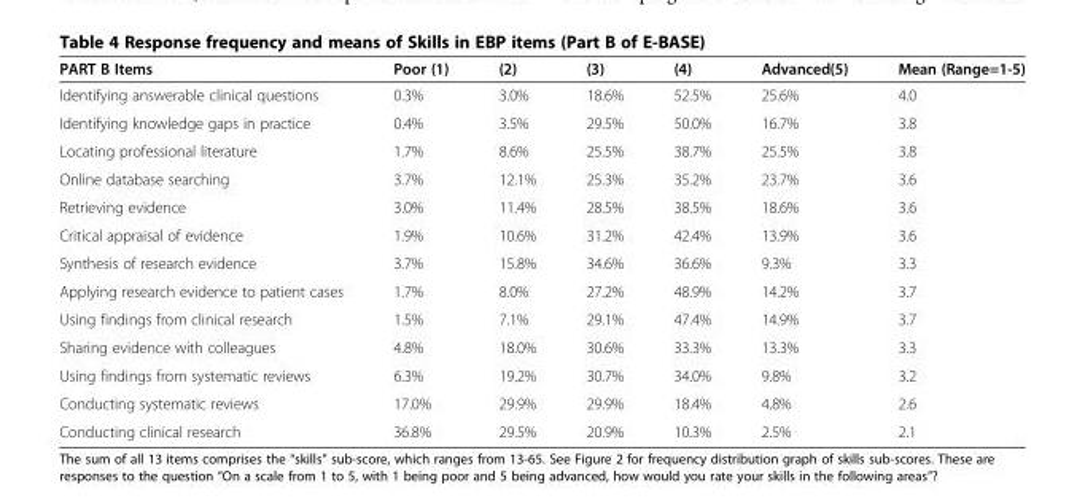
<table><thead><tr><td>PART B Items</td><td>Poor (1)</td><td>(2)</td><td>(3)</td><td>(4)</td><td>Advanced(5)</td><td>Mean (Range=1-5)</td></tr></thead><tbody><tr><td>Identifying answerable clinical questions</td><td>0.3%</td><td>3.0%</td><td>18.6%</td><td>52.5%</td><td>25.6%</td><td>4.0</td></tr><tr><td>Identifying knowledge gaps in practice</td><td>0.4%</td><td>3.5%</td><td>29.5%</td><td>50.0%</td><td>16.7%</td><td>3.8</td></tr><tr><td>Locating professional literature</td><td>1.7%</td><td>8.6%</td><td>25.5%</td><td>38.7%</td><td>25.5%</td><td>3.8</td></tr><tr><td>Online database searching</td><td>3.7%</td><td>12.1%</td><td>25.3%</td><td>35.2%</td><td>23.7%</td><td>3.6</td></tr><tr><td>Retrieving evidence</td><td>3.0%</td><td>11.4%</td><td>28.5%</td><td>38.5%</td><td>18.6%</td><td>3.6</td></tr><tr><td>Critical appraisal of evidence</td><td>1.9%</td><td>10.6%</td><td>31.2%</td><td>42.4%</td><td>13.9%</td><td>3.6</td></tr><tr><td>Synthesis of research evidence</td><td>3.7%</td><td>15.8%</td><td>34.6%</td><td>36.6%</td><td>9.3%</td><td>3.3</td></tr><tr><td>Applying research evidence to patient cases</td><td>1.7%</td><td>8.0%</td><td>27.2%</td><td>48.9%</td><td>14.2%</td><td>3.7</td></tr><tr><td>Using findings from clinical research</td><td>1.5%</td><td>7.1%</td><td>29.1%</td><td>47.4%</td><td>14.9%</td><td>3.7</td></tr><tr><td>Sharing evidence with colleagues</td><td>4.8%</td><td>18.0%</td><td>30.6%</td><td>33.3%</td><td>13.3%</td><td>3.3</td></tr><tr><td>Using findings from systematic reviews</td><td>6.3%</td><td>19.2%</td><td>30.7%</td><td>34.0%</td><td>9.8%</td><td>3.2</td></tr><tr><td>Conducting systematic reviews</td><td>17.0%</td><td>29.9%</td><td>29.9%</td><td>18.4%</td><td>4.8%</td><td>2.6</td></tr><tr><td>Conducting clinical research</td><td>36.8%</td><td>29.5%</td><td>20.9%</td><td>10.3%</td><td>2.5%</td><td>2.1</td></tr></tbody></table>